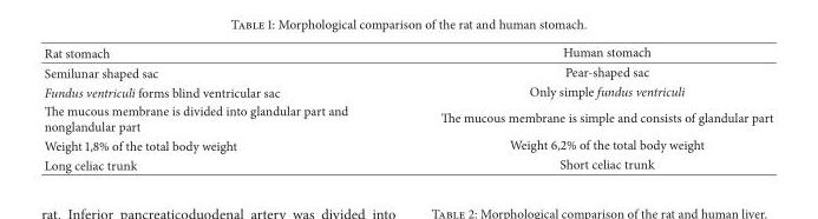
<table><thead><tr><td>Rat stomach</td><td>Human stomach</td></tr></thead><tbody><tr><td>Semilunar shaped sac</td><td>Pear-shaped sac</td></tr><tr><td>Fundus ventriculi forms blind ventricular sac</td><td>Only simple fundus ventriculi</td></tr><tr><td>The mucous membrane is divided into glandular part and nonglandular part</td><td>The mucous membrane is simple and consists of glandular part</td></tr><tr><td>Weight 1,8% of the total body weight</td><td>Weight 6,2% of the total body weight</td></tr><tr><td>Long celiac trunk</td><td>Short celiac trunk</td></tr></tbody></table>